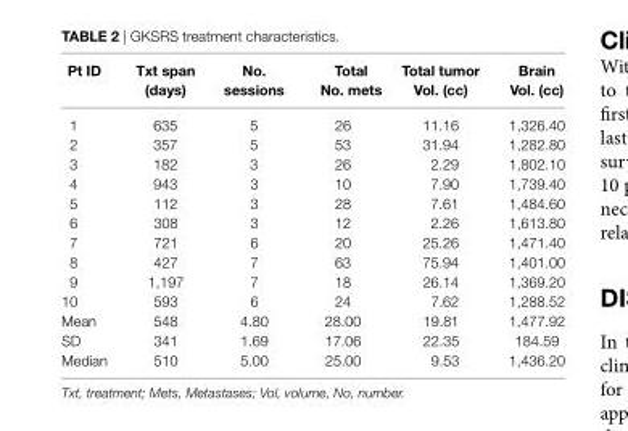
<table><thead><tr><td>Pt iD</td><td>Txt span (days)</td><td>no. sessions</td><td>Total no. mets</td><td>Total tumor Vol. (cc)</td><td>Brain Vol. (cc)</td></tr></thead><tbody><tr><td>1</td><td>635</td><td>5</td><td>26</td><td>11.16</td><td>1,326.40</td></tr><tr><td>2</td><td>357</td><td>5</td><td>53</td><td>31.94</td><td>1,282.80</td></tr><tr><td>3</td><td>182</td><td>3</td><td>26</td><td>2.29</td><td>1,802.10</td></tr><tr><td>4</td><td>943</td><td>3</td><td>10</td><td>7.90</td><td>1,739.40</td></tr><tr><td>5</td><td>112</td><td>3</td><td>28</td><td>7.61</td><td>1,484.60</td></tr><tr><td>6</td><td>308</td><td>3</td><td>12</td><td>2.26</td><td>1,613.80</td></tr><tr><td>7</td><td>721</td><td>6</td><td>20</td><td>25.26</td><td>1,471.40</td></tr><tr><td>8</td><td>427</td><td>7</td><td>63</td><td>75.94</td><td>1,401.00</td></tr><tr><td>9</td><td>1,197</td><td>7</td><td>18</td><td>26.14</td><td>1,369.20</td></tr><tr><td>10</td><td>593</td><td>6</td><td>24</td><td>7.62</td><td>1,288.52</td></tr><tr><td>Mean</td><td>548</td><td>4.80</td><td>28.00</td><td>19.81</td><td>1,477.92</td></tr><tr><td>SD</td><td>341</td><td>1.69</td><td>17.06</td><td>22.35</td><td>184.59</td></tr><tr><td>Median</td><td>510</td><td>5.00</td><td>25.00</td><td>9.53</td><td>1,436.20</td></tr></tbody></table>